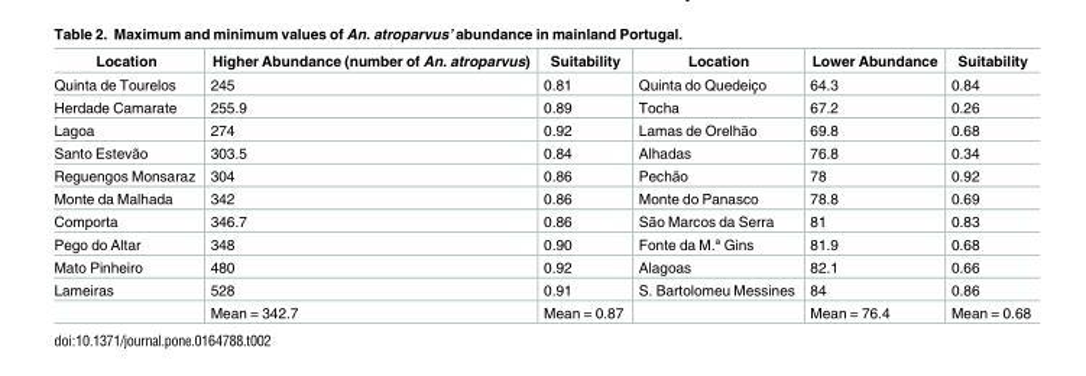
<table><thead><tr><td>Location</td><td>Higher Abundance (number of An. atroparvus)</td><td>Suitability</td><td>Location</td><td>Lower Abundance</td><td>Suitability</td></tr></thead><tbody><tr><td>Quinta de Tourelos</td><td>245</td><td>0.81</td><td>Quinta do Quedeic¸o</td><td>64.3</td><td>0.84</td></tr><tr><td>Herdade Camarate</td><td>255.9</td><td>0.89</td><td>Tocha</td><td>67.2</td><td>0.26</td></tr><tr><td>Lagoa</td><td>274</td><td>0.92</td><td>Lamas de Orelhão</td><td>69.8</td><td>0.68</td></tr><tr><td>Santo Estevão</td><td>303.5</td><td>0.84</td><td>Alhadas</td><td>76.8</td><td>0.34</td></tr><tr><td>Reguengos Monsaraz</td><td>304</td><td>0.86</td><td>Pechão</td><td>78</td><td>0.92</td></tr><tr><td>Monte da Malhada</td><td>342</td><td>0.86</td><td>Monte do Panasco</td><td>78.8</td><td>0.69</td></tr><tr><td>Comporta</td><td>346.7</td><td>0.86</td><td>São Marcos da Serra</td><td>81</td><td>0.83</td></tr><tr><td>Pego do Altar</td><td>348</td><td>0.90</td><td>Fonte da M.ª Gins</td><td>81.9</td><td>0.68</td></tr><tr><td>Mato Pinheiro</td><td>480</td><td>0.92</td><td>Alagoas</td><td>82.1</td><td>0.66</td></tr><tr><td rowspan="2">Lameiras</td><td>528</td><td>0.91</td><td>S. Bartolomeu Messines</td><td>84</td><td>0.86</td></tr><tr><td>Mean = 342.7</td><td>Mean = 0.87</td><td></td><td>Mean = 76.4</td><td>Mean = 0.68</td></tr></tbody></table>